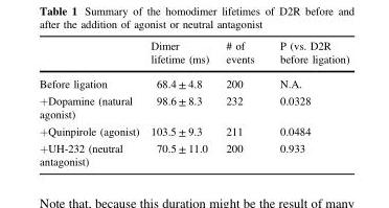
<table><thead><tr><td></td><td>Dimer lifetime (ms)</td><td># of events</td><td>P (vs. D2R before ligation)</td></tr></thead><tbody><tr><td>Before ligation</td><td>68.4 ± 4.8</td><td>200</td><td>N.A.</td></tr><tr><td>+Dopamine (natural agonist)</td><td>98.6 ± 8.3</td><td>232</td><td>0.0328</td></tr><tr><td>+Quinpirole (agonist)</td><td>103.5 ± 9.3</td><td>211</td><td>0.0484</td></tr><tr><td>+UH-232 (neutral antagonist)</td><td>70.5 ± 11.0</td><td>200</td><td>0.933</td></tr></tbody></table>